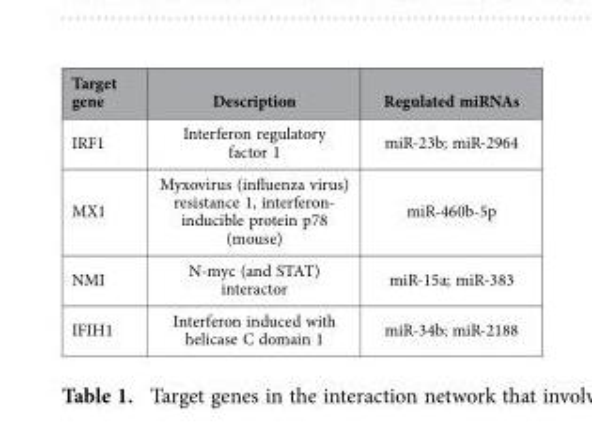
<table><thead><tr><td>Target gene</td><td>Description</td><td>Regulated miRNAs</td></tr></thead><tbody><tr><td>IRF1</td><td>Interferon regulatory factor 1</td><td>miR-23b; miR-2964</td></tr><tr><td>MX1</td><td>Myxovirus (influenza virus) resistance 1, interferon- inducible protein p78 (mouse)</td><td>miR-460b-5p</td></tr><tr><td>NMI</td><td>N-myc (and STAT) interactor</td><td>miR-15a; miR-383</td></tr><tr><td>IFIH1</td><td>Interferon induced with helicase C domain 1</td><td>miR-34b; miR-2188</td></tr></tbody></table>